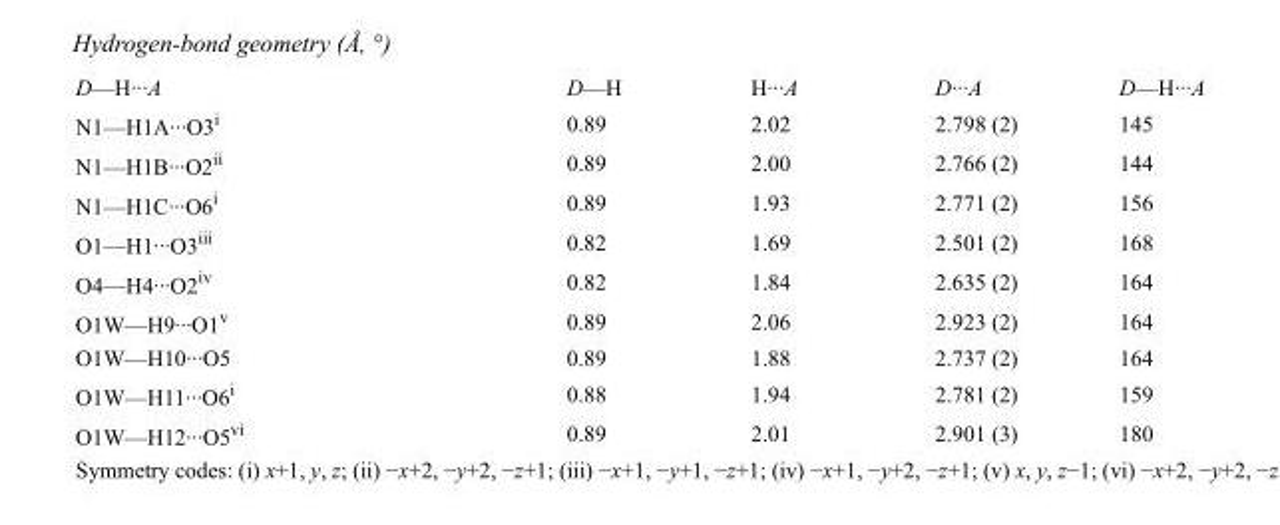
<table><tbody><tr><td>D—H···A</td><td>D—H</td><td>H···A</td><td>D···A</td><td>D—H···A</td></tr><tr><td>N1—H1A···O3<sup>i</sup></td><td>0.89</td><td>2.02</td><td>2.798 (2)</td><td>145</td></tr><tr><td>N1—H1B···O2<sup>ii</sup></td><td>0.89</td><td>2.00</td><td>2.766 (2)</td><td>144</td></tr><tr><td>N1—H1C···O6<sup>i</sup></td><td>0.89</td><td>1.93</td><td>2.771 (2)</td><td>156</td></tr><tr><td>O1—H1···O3<sup>iii</sup></td><td>0.82</td><td>1.69</td><td>2.501 (2)</td><td>168</td></tr><tr><td>O4—H4···O2<sup>iv</sup></td><td>0.82</td><td>1.84</td><td>2.635 (2)</td><td>164</td></tr><tr><td>O1W—H9···O1<sup>v</sup></td><td>0.89</td><td>2.06</td><td>2.923 (2)</td><td>164</td></tr><tr><td>O1W—H10···O5</td><td>0.89</td><td>1.88</td><td>2.737 (2)</td><td>164</td></tr><tr><td>O1W—H11···O6<sup>i</sup></td><td>0.88</td><td>1.94</td><td>2.781 (2)</td><td>159</td></tr><tr><td>O1W—H12···O5<sup>vi</sup></td><td>0.89</td><td>2.01</td><td>2.901 (3)</td><td>180</td></tr></tbody></table>